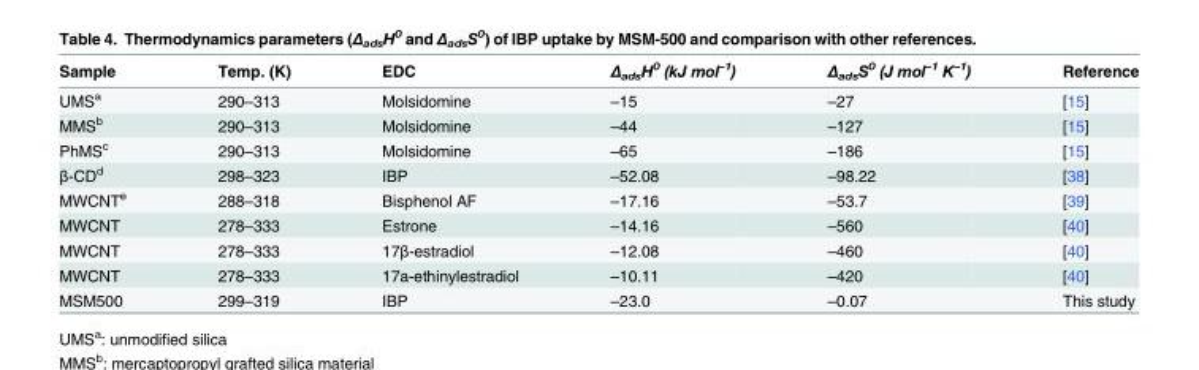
<table><thead><tr><td>Sample</td><td>Temp. (K)</td><td>EDC</td><td>Δ<sub>ads</sub>H<sup>0</sup> (kJ mol<sup>–1</sup>)</td><td>Δ<sub>ads</sub>S<sup>0</sup> (J mol<sup>–1</sup> K<sup>–1</sup>)</td><td>Reference</td></tr></thead><tbody><tr><td>UMS<sup>a</sup></td><td>290–313</td><td>Molsidomine</td><td>–15</td><td>–27</td><td>[15]</td></tr><tr><td>MMS<sup>b</sup></td><td>290–313</td><td>Molsidomine</td><td>–44</td><td>–127</td><td>[15]</td></tr><tr><td>PhMS<sup>c</sup></td><td>290–313</td><td>Molsidomine</td><td>–65</td><td>–186</td><td>[15]</td></tr><tr><td>β-CD<sup>d</sup></td><td>298–323</td><td>IBP</td><td>–52.08</td><td>–98.22</td><td>[38]</td></tr><tr><td>MWCNT<sup>e</sup></td><td>288–318</td><td>Bisphenol AF</td><td>–17.16</td><td>–53.7</td><td>[39]</td></tr><tr><td>MWCNT</td><td>278–333</td><td>Estrone</td><td>–14.16</td><td>–560</td><td>[40]</td></tr><tr><td>MWCNT</td><td>278–333</td><td>17β-estradiol</td><td>–12.08</td><td>–460</td><td>[40]</td></tr><tr><td>MWCNT</td><td>278–333</td><td>17a-ethinylestradiol</td><td>–10.11</td><td>–420</td><td>[40]</td></tr><tr><td>MSM500</td><td>299–319</td><td>IBP</td><td>–23.0</td><td>–0.07</td><td>This study</td></tr></tbody></table>